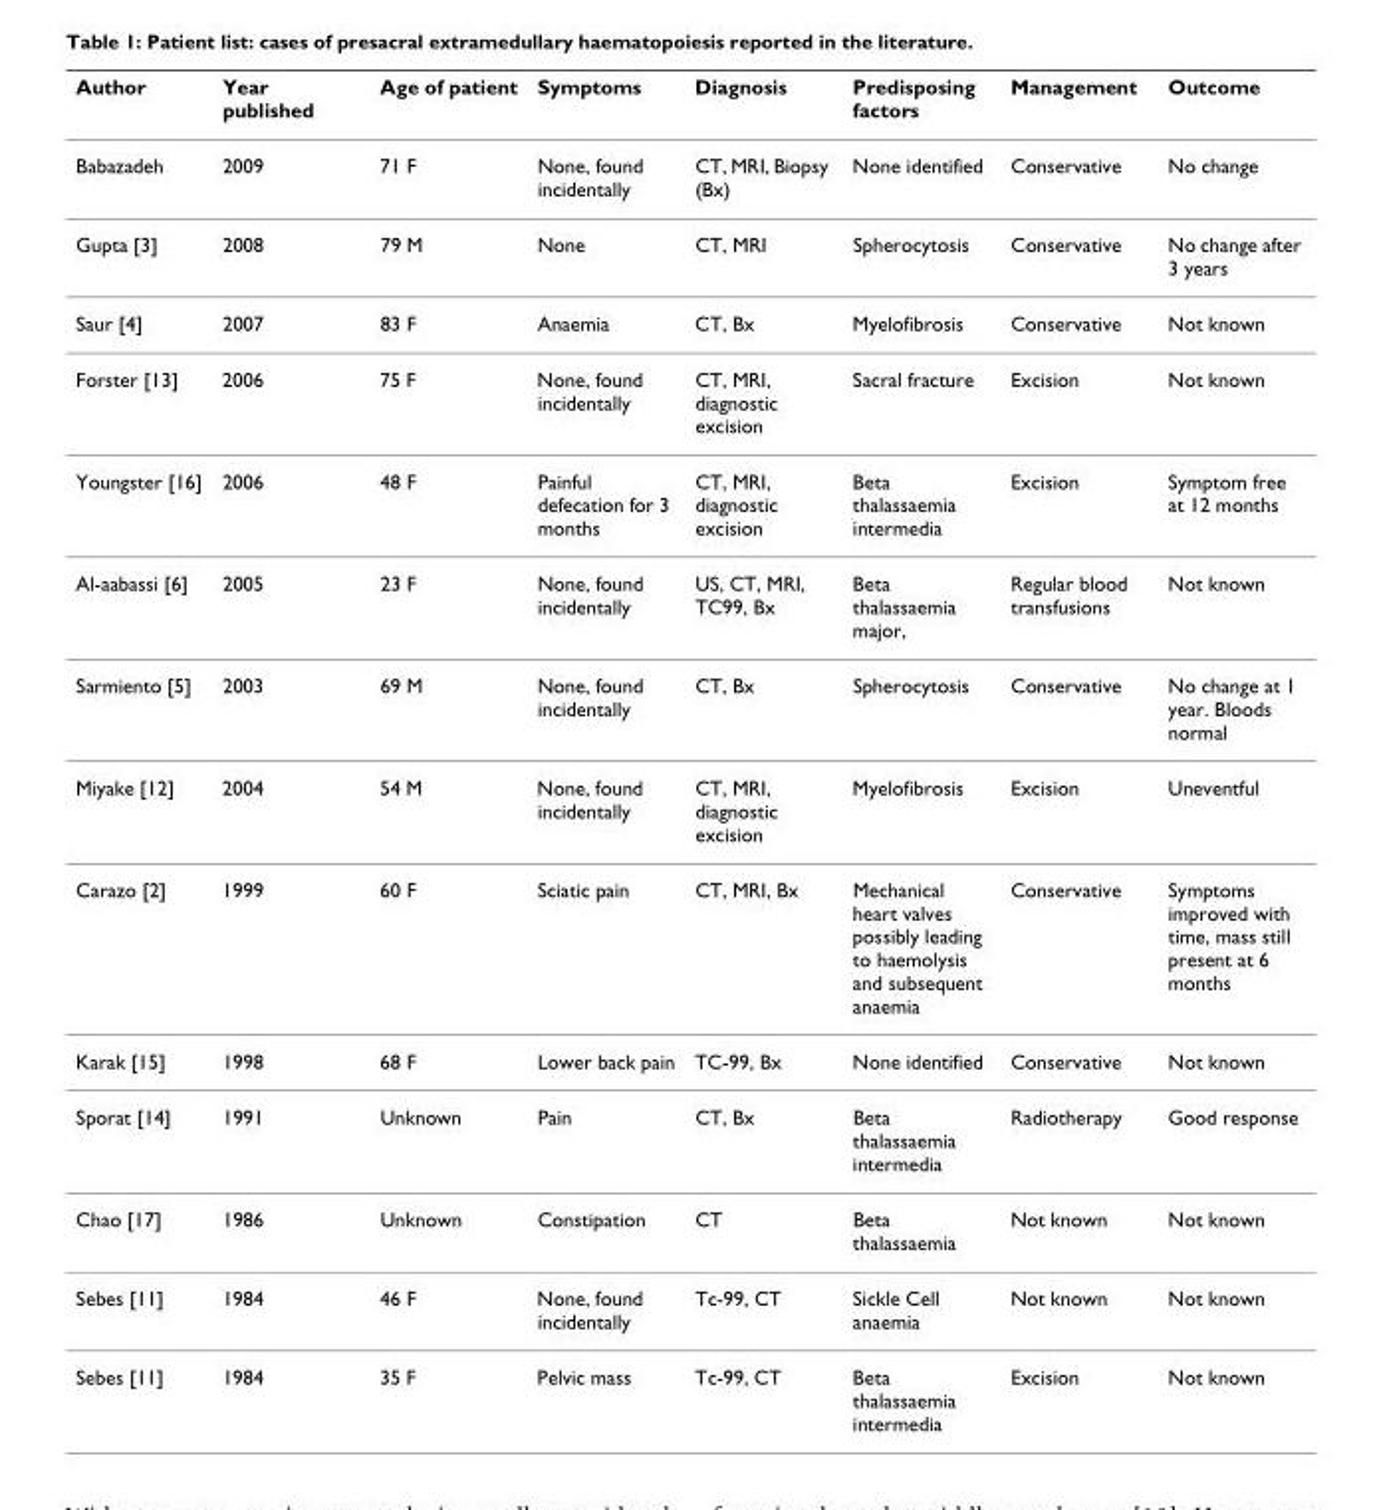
<table><thead><tr><td>Author</td><td>Year published</td><td>Age of patient</td><td>Symptoms</td><td>Diagnosis</td><td>Predisposing factors</td><td>Management</td><td>Outcome</td></tr></thead><tbody><tr><td>Babazadeh</td><td>2009</td><td>71 F</td><td>None, found incidentally</td><td>CT, MRI, Biopsy (Bx)</td><td>None identified</td><td>Conservative</td><td>No change</td></tr><tr><td>Gupta [3]</td><td>2008</td><td>79 M</td><td>None</td><td>CT, MRI</td><td>Spherocytosis</td><td>Conservative</td><td>No change after 3 years</td></tr><tr><td>Saur [4]</td><td>2007</td><td>83 F</td><td>Anaemia</td><td>CT, Bx</td><td>Myelofibrosis</td><td>Conservative</td><td>Not known</td></tr><tr><td>Forster [13]</td><td>2006</td><td>75 F</td><td>None, found incidentally</td><td>CT, MRI, diagnostic excision</td><td>Sacral fracture</td><td>Excision</td><td>Not known</td></tr><tr><td>Youngster [16]</td><td>2006</td><td>48 F</td><td>Painful defecation for 3 months</td><td>CT, MRI, diagnostic excision</td><td>Beta thalassaemia intermedia</td><td>Excision</td><td>Symptom free at 12 months</td></tr><tr><td>Al-aabassi [6]</td><td>2005</td><td>23 F</td><td>None, found incidentally</td><td>US, CT, MRI, TC99, Bx</td><td>Beta thalassaemia major,</td><td>Regular blood transfusions</td><td>Not known</td></tr><tr><td>Sarmiento [5]</td><td>2003</td><td>69 M</td><td>None, found incidentally</td><td>CT, Bx</td><td>Spherocytosis</td><td>Conservative</td><td>No change at 1 year. Bloods normal</td></tr><tr><td>Miyake [12]</td><td>2004</td><td>54 M</td><td>None, found incidentally</td><td>CT, MRI, diagnostic excision</td><td>Myelofibrosis</td><td>Excision</td><td>Uneventful</td></tr><tr><td>Carazo [2]</td><td>1999</td><td>60 F</td><td>Sciatic pain</td><td>CT, MRI, Bx</td><td>Mechanical heart valves possibly leading to haemolysis and subsequent anaemia</td><td>Conservative</td><td>Symptoms improved with time, mass still present at 6 months</td></tr><tr><td>Karak [15]</td><td>1998</td><td>68 F</td><td>Lower back pain</td><td>TC-99, Bx</td><td>None identified</td><td>Conservative</td><td>Not known</td></tr><tr><td>Sporat [14]</td><td>1991</td><td>Unknown</td><td>Pain</td><td>CT, Bx</td><td>Beta thalassaemia intermedia</td><td>Radiotherapy</td><td>Good response</td></tr><tr><td>Chao [17]</td><td>1986</td><td>Unknown</td><td>Constipation</td><td>CT</td><td>Beta thalassaemia</td><td>Not known</td><td>Not known</td></tr><tr><td>Sebes [11]</td><td>1984</td><td>46 F</td><td>None, found incidentally</td><td>Tc-99, CT</td><td>Sickle Cell anaemia</td><td>Not known</td><td>Not known</td></tr><tr><td>Sebes [11]</td><td>1984</td><td>35 F</td><td>Pelvic mass</td><td>Tc-99, CT</td><td>Beta thalassaemia intermedia</td><td>Excision</td><td>Not known</td></tr></tbody></table>